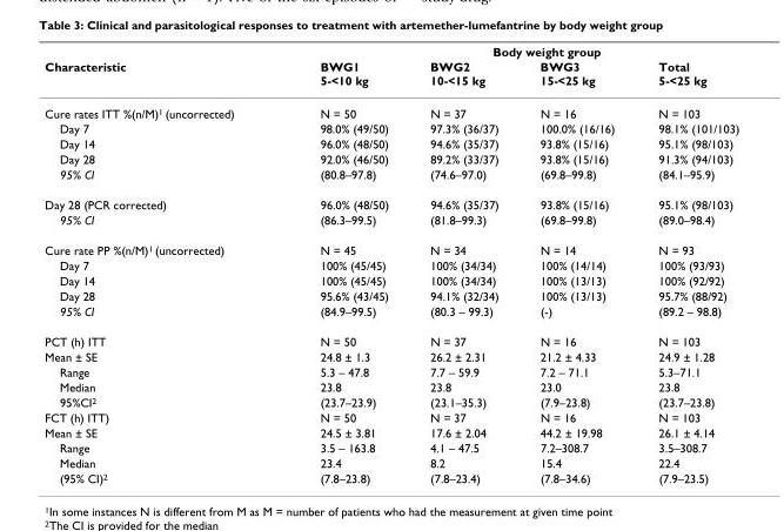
<table><thead><tr><td rowspan="2">Characteristic</td><td colspan="4">Body weight group</td></tr><tr><td>BWG1 5-&lt;10 kg</td><td>BWG2 10-&lt;15 kg</td><td>BWG3 15-&lt;25 kg</td><td>Total 5-&lt;25 kg</td></tr></thead><tbody><tr><td>Cure rates ITT %(n/M)<sup>1</sup> (uncorrected)</td><td>N = 50</td><td>N = 37</td><td>N = 16</td><td>N = 103</td></tr><tr><td>Day 7</td><td>98.0% (49/50)</td><td>97.3% (36/37)</td><td>100.0% (16/16)</td><td>98.1% (101/103)</td></tr><tr><td>Day 14</td><td>96.0% (48/50)</td><td>94.6% (35/37)</td><td>93.8% (15/16)</td><td>95.1% (98/103)</td></tr><tr><td>Day 28</td><td>92.0% (46/50)</td><td>89.2% (33/37)</td><td>93.8% (15/16)</td><td>91.3% (94/103)</td></tr><tr><td>95% CI</td><td>(80.8–97.8)</td><td>(74.6–97.0)</td><td>(69.8–99.8)</td><td>(84.1–95.9)</td></tr><tr><td>Day 28 (PCR corrected)</td><td>96.0% (48/50)</td><td>94.6% (35/37)</td><td>93.8% (15/16)</td><td>95.1% (98/103)</td></tr><tr><td>95% CI</td><td>(86.3–99.5)</td><td>(81.8–99.3)</td><td>(69.8–99.8)</td><td>(89.0–98.4)</td></tr><tr><td>Cure rate PP %(n/M)<sup>1</sup> (uncorrected)</td><td>N = 45</td><td>N = 34</td><td>N = 14</td><td>N = 93</td></tr><tr><td>Day 7</td><td>100% (45/45)</td><td>100% (34/34)</td><td>100% (14/14)</td><td>100% (93/93)</td></tr><tr><td>Day 14</td><td>100% (45/45)</td><td>100% (34/34)</td><td>100% (13/13)</td><td>100% (92/92)</td></tr><tr><td>Day 28</td><td>95.6% (43/45)</td><td>94.1% (32/34)</td><td>100% (13/13)</td><td>95.7% (88/92)</td></tr><tr><td>95% CI</td><td>(84.9–99.5)</td><td>(80.3 – 99.3)</td><td>(-)</td><td>(89.2 – 98.8)</td></tr><tr><td>PCT (h) ITT</td><td>N = 50</td><td>N = 37</td><td>N = 16</td><td>N = 103</td></tr><tr><td>Mean ± SE</td><td>24.8 ± 1.3</td><td>26.2 ± 2.31</td><td>21.2 ± 4.33</td><td>24.9 ± 1.28</td></tr><tr><td>Range</td><td>5.3 – 47.8</td><td>7.7 – 59.9</td><td>7.2 – 71.1</td><td>5.3–71.1</td></tr><tr><td>Median</td><td>23.8</td><td>23.8</td><td>23.0</td><td>23.8</td></tr><tr><td>95%CI<sup>2</sup></td><td>(23.7–23.9)</td><td>(23.1–35.3)</td><td>(7.9–23.8)</td><td>(23.7–23.8)</td></tr><tr><td>FCT (h) ITT)</td><td>N = 50</td><td>N = 37</td><td>N = 16</td><td>N = 103</td></tr><tr><td>Mean ± SE</td><td>24.5 ± 3.81</td><td>17.6 ± 2.04</td><td>44.2 ± 19.98</td><td>26.1 ± 4.14</td></tr><tr><td>Range</td><td>3.5 – 163.8</td><td>4.1 – 47.5</td><td>7.2–308.7</td><td>3.5–308.7</td></tr><tr><td>Median</td><td>23.4</td><td>8.2</td><td>15.4</td><td>22.4</td></tr><tr><td>(95% CI)<sup>2</sup></td><td>(7.8–23.8)</td><td>(7.8–23.4)</td><td>(7.8–34.6)</td><td>(7.9–23.5)</td></tr></tbody></table>